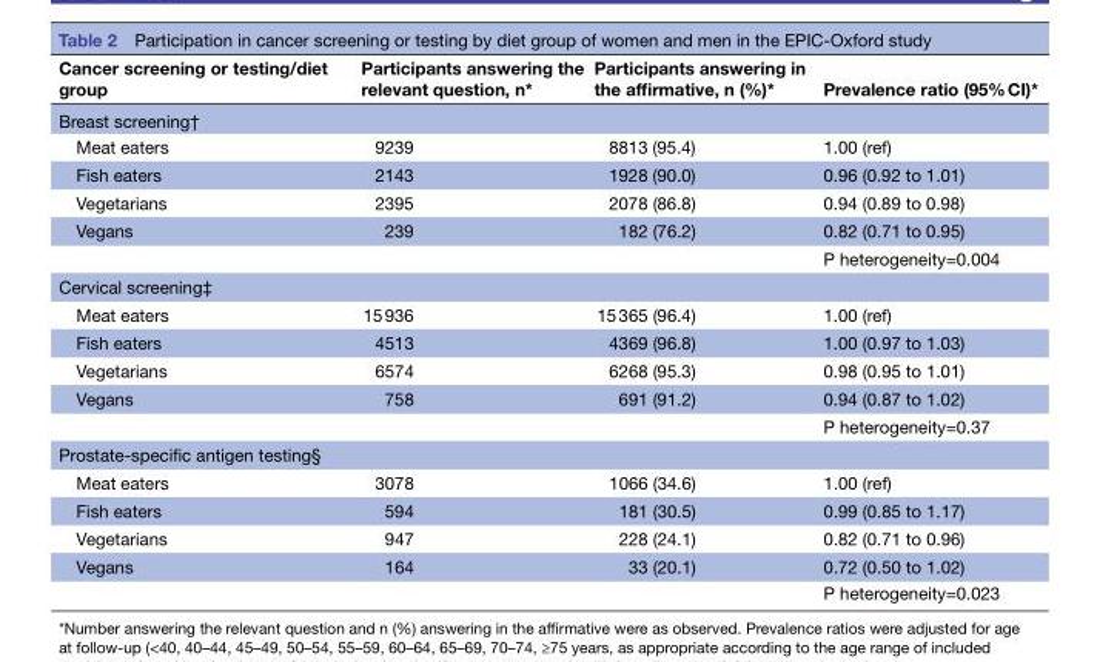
<table><thead><tr><td>Cancer screening or testing/diet group</td><td>Participants answering the relevant question, n*</td><td>Participants answering in the affirmative, n (%)*</td><td>Prevalence ratio (95% CI)*</td></tr></thead><tbody><tr><td colspan="4">Breast screening†</td></tr><tr><td>Meat eaters</td><td>9239</td><td>8813 (95.4)</td><td>1.00 (ref)</td></tr><tr><td>Fish eaters</td><td>2143</td><td>1928 (90.0)</td><td>0.96 (0.92 to 1.01)</td></tr><tr><td>Vegetarians</td><td>2395</td><td>2078 (86.8)</td><td>0.94 (0.89 to 0.98)</td></tr><tr><td rowspan="2">Vegans</td><td>239</td><td>182 (76.2)</td><td>0.82 (0.71 to 0.95)</td></tr><tr><td></td><td></td><td>P heterogeneity=0.004</td></tr><tr><td colspan="4">Cervical screening‡</td></tr><tr><td>Meat eaters</td><td>15 936</td><td>15 365 (96.4)</td><td>1.00 (ref)</td></tr><tr><td>Fish eaters</td><td>4513</td><td>4369 (96.8)</td><td>1.00 (0.97 to 1.03)</td></tr><tr><td>Vegetarians</td><td>6574</td><td>6268 (95.3)</td><td>0.98 (0.95 to 1.01)</td></tr><tr><td rowspan="2">Vegans</td><td>758</td><td>691 (91.2)</td><td>0.94 (0.87 to 1.02)</td></tr><tr><td></td><td></td><td>P heterogeneity=0.37</td></tr><tr><td colspan="4">Prostate-specific antigen testing§</td></tr><tr><td>Meat eaters</td><td>3078</td><td>1066 (34.6)</td><td>1.00 (ref)</td></tr><tr><td>Fish eaters</td><td>594</td><td>181 (30.5)</td><td>0.99 (0.85 to 1.17)</td></tr><tr><td>Vegetarians</td><td>947</td><td>228 (24.1)</td><td>0.82 (0.71 to 0.96)</td></tr><tr><td rowspan="2">Vegans</td><td>164</td><td>33 (20.1)</td><td>0.72 (0.50 to 1.02)</td></tr><tr><td></td><td></td><td>P heterogeneity=0.023</td></tr></tbody></table>